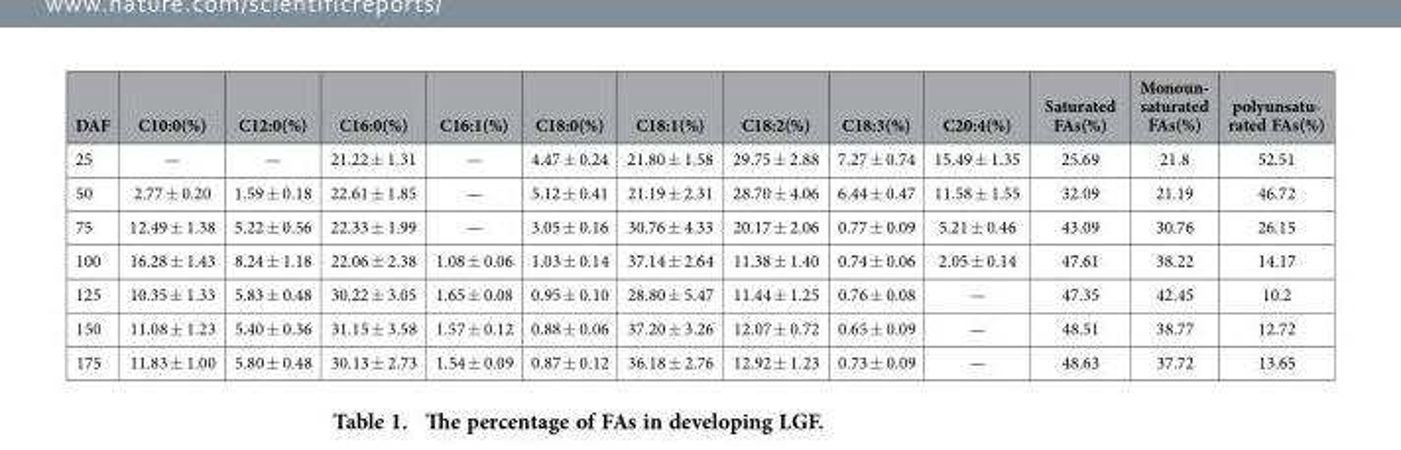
<table><thead><tr><td>DAF</td><td>C10:0(%)</td><td>C12:0(%)</td><td>C16:0(%)</td><td>C16:1(%)</td><td>C18:0(%)</td><td>C18:1(%)</td><td>C18:2(%)</td><td>C18:3(%)</td><td>C20:4(%)</td><td>Saturated FAs(%)</td><td>Monoun- saturated FAs(%)</td><td>polyunsatu- rated FAs(%)</td></tr></thead><tbody><tr><td>25</td><td>—</td><td>—</td><td>21.22 ± 1.31</td><td>—</td><td>4.47 ± 0.24</td><td>21.80 ± 1.58</td><td>29.75 ± 2.88</td><td>7.27 ± 0.74</td><td>15.49 ± 1.35</td><td>25.69</td><td>21.8</td><td>52.51</td></tr><tr><td>50</td><td>2.77 ± 0.20</td><td>1.59 ± 0.18</td><td>22.61 ± 1.85</td><td>—</td><td>5.12 ± 0.41</td><td>21.19 ± 2.31</td><td>28.70 ± 4.06</td><td>6.44 ± 0.47</td><td>11.58 ± 1.55</td><td>32.09</td><td>21.19</td><td>46.72</td></tr><tr><td>75</td><td>12.49 ± 1.38</td><td>5.22 ± 0.56</td><td>22.33 ± 1.99</td><td>—</td><td>3.05 ± 0.16</td><td>30.76 ± 4.33</td><td>20.17 ± 2.06</td><td>0.77 ± 0.09</td><td>5.21 ± 0.46</td><td>43.09</td><td>30.76</td><td>26.15</td></tr><tr><td>100</td><td>16.28 ± 1.43</td><td>8.24 ± 1.18</td><td>22.06 ± 2.38</td><td>1.08 ± 0.06</td><td>1.03 ± 0.14</td><td>37.14 ± 2.64</td><td>11.38 ± 1.40</td><td>0.74 ± 0.06</td><td>2.05 ± 0.14</td><td>47.61</td><td>38.22</td><td>14.17</td></tr><tr><td>125</td><td>10.35 ± 1.33</td><td>5.83 ± 0.48</td><td>30.22 ± 3.05</td><td>1.65 ± 0.08</td><td>0.95 ± 0.10</td><td>28.80 ± 5.47</td><td>11.44 ± 1.25</td><td>0.76 ± 0.08</td><td>—</td><td>47.35</td><td>42.45</td><td>10.2</td></tr><tr><td>150</td><td>11.08 ± 1.23</td><td>5.40 ± 0.36</td><td>31.15 ± 3.58</td><td>1.57 ± 0.12</td><td>0.88 ± 0.06</td><td>37.20 ± 3.26</td><td>12.07 ± 0.72</td><td>0.65 ± 0.09</td><td>—</td><td>48.51</td><td>38.77</td><td>12.72</td></tr><tr><td>175</td><td>11.83 ± 1.00</td><td>5.80 ± 0.48</td><td>30.13 ± 2.73</td><td>1.54 ± 0.09</td><td>0.87 ± 0.12</td><td>36.18 ± 2.76</td><td>12.92 ± 1.23</td><td>0.73 ± 0.09</td><td>—</td><td>48.63</td><td>37.72</td><td>13.65</td></tr></tbody></table>